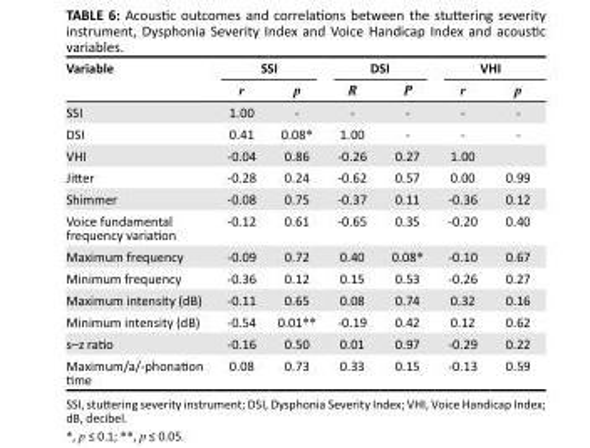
<table><thead><tr><td rowspan="2">Variable</td><td colspan="2">SSI</td><td colspan="2">DSI</td><td colspan="2">VHI</td></tr><tr><td>r</td><td>p</td><td>R</td><td>P</td><td>r</td><td>p</td></tr></thead><tbody><tr><td>SSI</td><td>1.00</td><td>-</td><td>-</td><td>-</td><td>-</td><td>-</td></tr><tr><td>DSI</td><td>0.41</td><td>0.08*</td><td>1.00</td><td>-</td><td>-</td><td>-</td></tr><tr><td>VHI</td><td>-0.04</td><td>0.86</td><td>-0.26</td><td>0.27</td><td>1.00</td><td></td></tr><tr><td>Jitter</td><td>-0.28</td><td>0.24</td><td>-0.62</td><td>0.57</td><td>0.00</td><td>0.99</td></tr><tr><td>Shimmer</td><td>-0.08</td><td>0.75</td><td>-0.37</td><td>0.11</td><td>-0.36</td><td>0.12</td></tr><tr><td>Voice fundamental frequency variation</td><td>-0.12</td><td>0.61</td><td>-0.65</td><td>0.35</td><td>-0.20</td><td>0.40</td></tr><tr><td>Maximum frequency</td><td>-0.09</td><td>0.72</td><td>0.40</td><td>0.08*</td><td>-0.10</td><td>0.67</td></tr><tr><td>Minimum frequency</td><td>-0.36</td><td>0.12</td><td>0.15</td><td>0.53</td><td>-0.26</td><td>0.27</td></tr><tr><td>Maximum intensity (dB)</td><td>-0.11</td><td>0.65</td><td>0.08</td><td>0.74</td><td>0.32</td><td>0.16</td></tr><tr><td>Minimum intensity (dB)</td><td>-0.54</td><td>0.01**</td><td>-0.19</td><td>0.42</td><td>0.12</td><td>0.62</td></tr><tr><td>s–z ratio</td><td>-0.16</td><td>0.50</td><td>0.01</td><td>0.97</td><td>-0.29</td><td>0.22</td></tr><tr><td>Maximum/a/-phonation time</td><td>0.08</td><td>0.73</td><td>0.33</td><td>0.15</td><td>-0.13</td><td>0.59</td></tr></tbody></table>